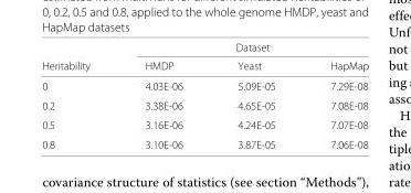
<table><thead><tr><td rowspan="2">Heritability</td><td colspan="3">Dataset</td></tr><tr><td>HMDP</td><td>Yeast</td><td>HapMap</td></tr></thead><tbody><tr><td>0</td><td>4.03E-06</td><td>5.09E-05</td><td>7.29E-08</td></tr><tr><td>0.2</td><td>3.38E-06</td><td>4.65E-05</td><td>7.08E-08</td></tr><tr><td>0.5</td><td>3.16E-06</td><td>4.24E-05</td><td>7.07E-08</td></tr><tr><td>0.8</td><td>3.10E-06</td><td>3.87E-05</td><td>7.06E-08</td></tr></tbody></table>